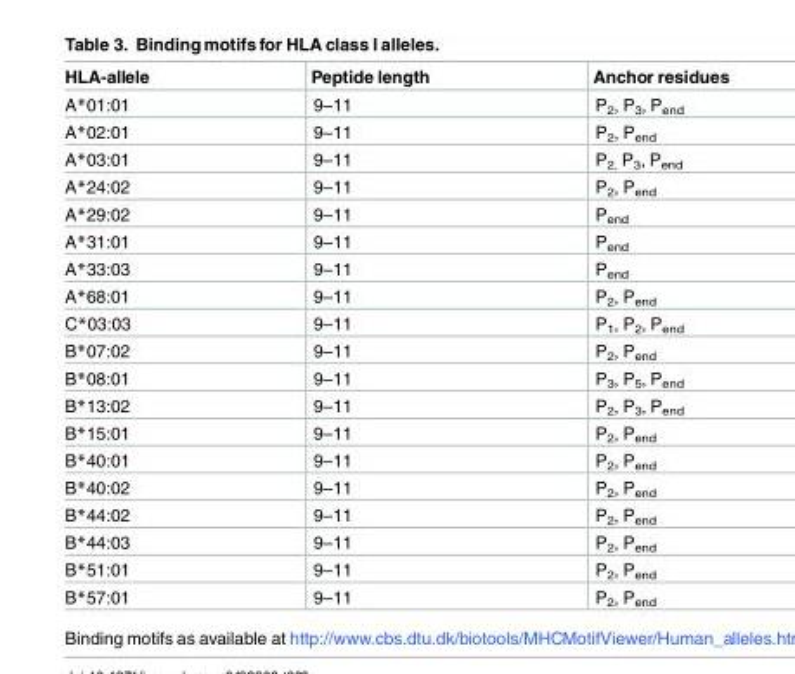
<table><thead><tr><td>HLA-allele</td><td>Peptide length</td><td>Anchor residues</td></tr></thead><tbody><tr><td>A*01:01</td><td>9–11</td><td>P<sub>2</sub>, P<sub>3</sub>, P<sub>end</sub></td></tr><tr><td>A*02:01</td><td>9–11</td><td>P<sub>2</sub>, P<sub>end</sub></td></tr><tr><td>A*03:01</td><td>9–11</td><td>P<sub>2,</sub> P<sub>3</sub>, P<sub>end</sub></td></tr><tr><td>A*24:02</td><td>9–11</td><td>P<sub>2</sub>, P<sub>end</sub></td></tr><tr><td>A*29:02</td><td>9–11</td><td>P<sub>end</sub></td></tr><tr><td>A*31:01</td><td>9–11</td><td>P<sub>end</sub></td></tr><tr><td>A*33:03</td><td>9–11</td><td>P<sub>end</sub></td></tr><tr><td>A*68:01</td><td>9–11</td><td>P<sub>2</sub>, P<sub>end</sub></td></tr><tr><td>C*03:03</td><td>9–11</td><td>P<sub>1</sub>, P<sub>2</sub>, P<sub>end</sub></td></tr><tr><td>B*07:02</td><td>9–11</td><td>P<sub>2</sub>, P<sub>end</sub></td></tr><tr><td>B*08:01</td><td>9–11</td><td>P<sub>3</sub>, P<sub>5</sub>, P<sub>end</sub></td></tr><tr><td>B*13:02</td><td>9–11</td><td>P<sub>2</sub>, P<sub>3</sub>, P<sub>end</sub></td></tr><tr><td>B*15:01</td><td>9–11</td><td>P<sub>2</sub>, P<sub>end</sub></td></tr><tr><td>B*40:01</td><td>9–11</td><td>P<sub>2</sub>, P<sub>end</sub></td></tr><tr><td>B*40:02</td><td>9–11</td><td>P<sub>2</sub>, P<sub>end</sub></td></tr><tr><td>B*44:02</td><td>9–11</td><td>P<sub>2</sub>, P<sub>end</sub></td></tr><tr><td>B*44:03</td><td>9–11</td><td>P<sub>2</sub>, P<sub>end</sub></td></tr><tr><td>B*51:01</td><td>9–11</td><td>P<sub>2</sub>, P<sub>end</sub></td></tr><tr><td>B*57:01</td><td>9–11</td><td>P<sub>2</sub>, P<sub>end</sub></td></tr></tbody></table>